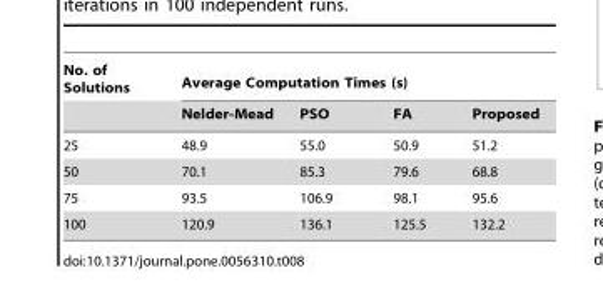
<table><thead><tr><td rowspan="2">No. of Solutions</td><td colspan="4">Average Computation Times (s)</td></tr><tr><td>Nelder-Mead</td><td>PSO</td><td>FA</td><td>Proposed</td></tr></thead><tbody><tr><td>25</td><td>48.9</td><td>55.0</td><td>50.9</td><td>51.2</td></tr><tr><td>50</td><td>70.1</td><td>85.3</td><td>79.6</td><td>68.8</td></tr><tr><td>75</td><td>93.5</td><td>106.9</td><td>98.1</td><td>95.6</td></tr><tr><td>100</td><td>120.9</td><td>136.1</td><td>125.5</td><td>132.2</td></tr></tbody></table>